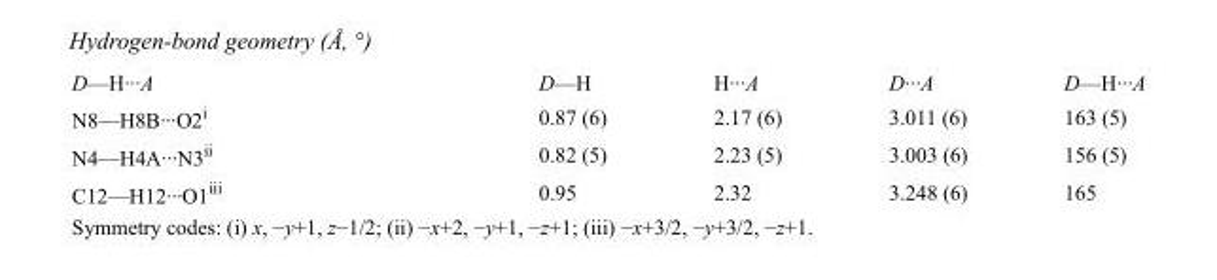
<table><tbody><tr><td>D—H···A</td><td>D—H</td><td>H···A</td><td>D···A</td><td>D—H···A</td></tr><tr><td>N8—H8B···O2<sup>i</sup></td><td>0.87 (6)</td><td>2.17 (6)</td><td>3.011 (6)</td><td>163 (5)</td></tr><tr><td>N4—H4A···N3<sup>ii</sup></td><td>0.82 (5)</td><td>2.23 (5)</td><td>3.003 (6)</td><td>156 (5)</td></tr><tr><td>C12—H12···O1<sup>iii</sup></td><td>0.95</td><td>2.32</td><td>3.248 (6)</td><td>165</td></tr></tbody></table>